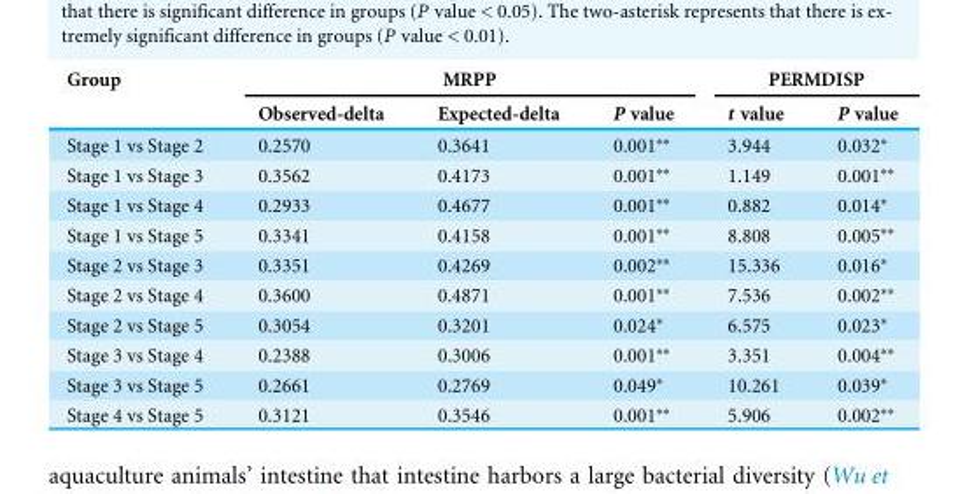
<table><thead><tr><td rowspan="2">Group</td><td colspan="3">MRPP</td><td colspan="2">PERMDISP</td></tr><tr><td>Observed-delta</td><td>Expected-delta</td><td>P value</td><td>t value</td><td>P value</td></tr></thead><tbody><tr><td>Stage 1 vs Stage 2</td><td>0.2570</td><td>0.3641</td><td>0.001∗∗</td><td>3.944</td><td>0.032∗</td></tr><tr><td>Stage 1 vs Stage 3</td><td>0.3562</td><td>0.4173</td><td>0.001∗∗</td><td>1.149</td><td>0.001∗∗</td></tr><tr><td>Stage 1 vs Stage 4</td><td>0.2933</td><td>0.4677</td><td>0.001∗∗</td><td>0.882</td><td>0.014∗</td></tr><tr><td>Stage 1 vs Stage 5</td><td>0.3341</td><td>0.4158</td><td>0.001∗∗</td><td>8.808</td><td>0.005∗∗</td></tr><tr><td>Stage 2 vs Stage 3</td><td>0.3351</td><td>0.4269</td><td>0.002∗∗</td><td>15.336</td><td>0.016∗</td></tr><tr><td>Stage 2 vs Stage 4</td><td>0.3600</td><td>0.4871</td><td>0.001∗∗</td><td>7.536</td><td>0.002∗∗</td></tr><tr><td>Stage 2 vs Stage 5</td><td>0.3054</td><td>0.3201</td><td>0.024∗</td><td>6.575</td><td>0.023∗</td></tr><tr><td>Stage 3 vs Stage 4</td><td>0.2388</td><td>0.3006</td><td>0.001∗∗</td><td>3.351</td><td>0.004∗∗</td></tr><tr><td>Stage 3 vs Stage 5</td><td>0.2661</td><td>0.2769</td><td>0.049∗</td><td>10.261</td><td>0.039∗</td></tr><tr><td>Stage 4 vs Stage 5</td><td>0.3121</td><td>0.3546</td><td>0.001∗∗</td><td>5.906</td><td>0.002∗∗</td></tr></tbody></table>